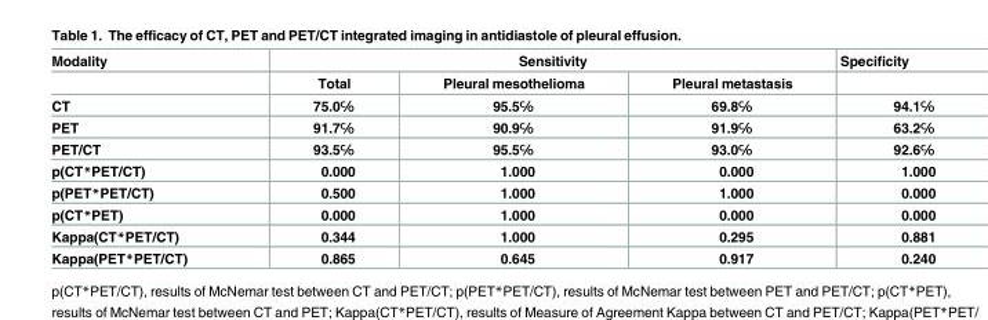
<table><thead><tr><td rowspan="2">Modality</td><td colspan="3">Sensitivity</td><td rowspan="2">Specificity</td></tr><tr><td>Total</td><td>Pleural mesothelioma</td><td>Pleural metastasis</td></tr></thead><tbody><tr><td>CT</td><td>75.0℅</td><td>95.5℅</td><td>69.8℅</td><td>94.1℅</td></tr><tr><td>PET</td><td>91.7℅</td><td>90.9℅</td><td>91.9℅</td><td>63.2℅</td></tr><tr><td>PET/CT</td><td>93.5℅</td><td>95.5℅</td><td>93.0℅</td><td>92.6℅</td></tr><tr><td>p(CT*PET/CT)</td><td>0.000</td><td>1.000</td><td>0.000</td><td>1.000</td></tr><tr><td>p(PET*PET/CT)</td><td>0.500</td><td>1.000</td><td>1.000</td><td>0.000</td></tr><tr><td>p(CT*PET)</td><td>0.000</td><td>1.000</td><td>0.000</td><td>0.000</td></tr><tr><td>Kappa(CT*PET/CT)</td><td>0.344</td><td>1.000</td><td>0.295</td><td>0.881</td></tr><tr><td>Kappa(PET*PET/CT)</td><td>0.865</td><td>0.645</td><td>0.917</td><td>0.240</td></tr></tbody></table>